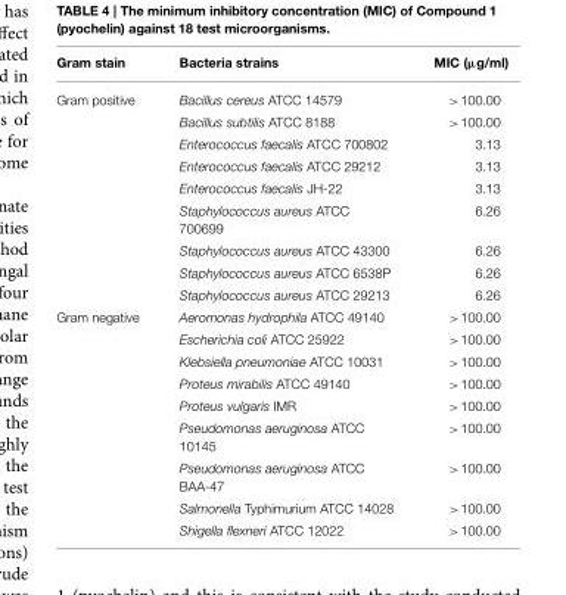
<table><thead><tr><td>Gram stain</td><td>Bacteria strains</td><td>MIC (µg/ml)</td></tr></thead><tbody><tr><td rowspan="9">Gram positive</td><td>Bacillus cereus ATCC 14579</td><td>&gt;100.00</td></tr><tr><td>Bacillus subtilis ATCC 8188</td><td>&gt;100.00</td></tr><tr><td>Enterococcus faecalis ATCC 700802</td><td>3.13</td></tr><tr><td>Enterococcus faecalis ATCC 29212</td><td>3.13</td></tr><tr><td>Enterococcus faecalis JH-22</td><td>3.13</td></tr><tr><td>Staphylococcus aureus ATCC 700699</td><td>6.26</td></tr><tr><td>Staphylococcus aureus ATCC 43300</td><td>6.26</td></tr><tr><td>Staphylococcus aureus ATCC 6538P</td><td>6.26</td></tr><tr><td>Staphylococcus aureus ATCC 29213</td><td>6.26</td></tr><tr><td rowspan="9">Gram negative</td><td>Aeromonas hydrophila ATCC 49140</td><td>&gt;100.00</td></tr><tr><td>Escherichia coli ATCC 25922</td><td>&gt;100.00</td></tr><tr><td>Klebsiella pneumoniae ATCC 10031</td><td>&gt;100.00</td></tr><tr><td>Proteus mirabilis ATCC 49140</td><td>&gt;100.00</td></tr><tr><td>Proteus vulgaris IMR</td><td>&gt;100.00</td></tr><tr><td>Pseudomonas aeruginosa ATCC 10145</td><td>&gt;100.00</td></tr><tr><td>Pseudomonas aeruginosa ATCC BAA-47</td><td>&gt;100.00</td></tr><tr><td>Salmonella Typhimurium ATCC 14028</td><td>&gt;100.00</td></tr><tr><td>Shigella flexneri ATCC 12022</td><td>&gt;100.00</td></tr></tbody></table>